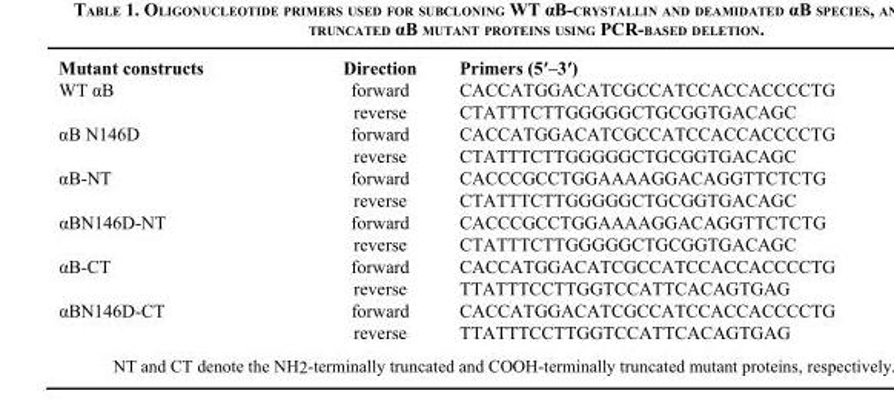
<table><thead><tr><td>Mutant constructs</td><td>Direction</td><td>Primers (5′–3′)</td></tr></thead><tbody><tr><td rowspan="2">WT αB</td><td>forward</td><td>CACCATGGACATCGCCATCCACCACCCCTG</td></tr><tr><td>reverse</td><td>CTATTTCTTGGGGGCTGCGGTGACAGC</td></tr><tr><td rowspan="2">αB N146D</td><td>forward</td><td>CACCATGGACATCGCCATCCACCACCCCTG</td></tr><tr><td>reverse</td><td>CTATTTCTTGGGGGCTGCGGTGACAGC</td></tr><tr><td rowspan="2">αB-NT</td><td>forward</td><td>CACCCGCCTGGAAAAGGACAGGTTCTCTG</td></tr><tr><td>reverse</td><td>CTATTTCTTGGGGGCTGCGGTGACAGC</td></tr><tr><td rowspan="2">αBN146D-NT</td><td>forward</td><td>CACCCGCCTGGAAAAGGACAGGTTCTCTG</td></tr><tr><td>reverse</td><td>CTATTTCTTGGGGGCTGCGGTGACAGC</td></tr><tr><td rowspan="2">αB-CT</td><td>forward</td><td>CACCATGGACATCGCCATCCACCACCCCTG</td></tr><tr><td>reverse</td><td>TTATTTCCTTGGTCCATTCACAGTGAG</td></tr><tr><td rowspan="2">αBN146D-CT</td><td>forward</td><td>CACCATGGACATCGCCATCCACCACCCCTG</td></tr><tr><td>reverse</td><td>TTATTTCCTTGGTCCATTCACAGTGAG</td></tr></tbody></table>